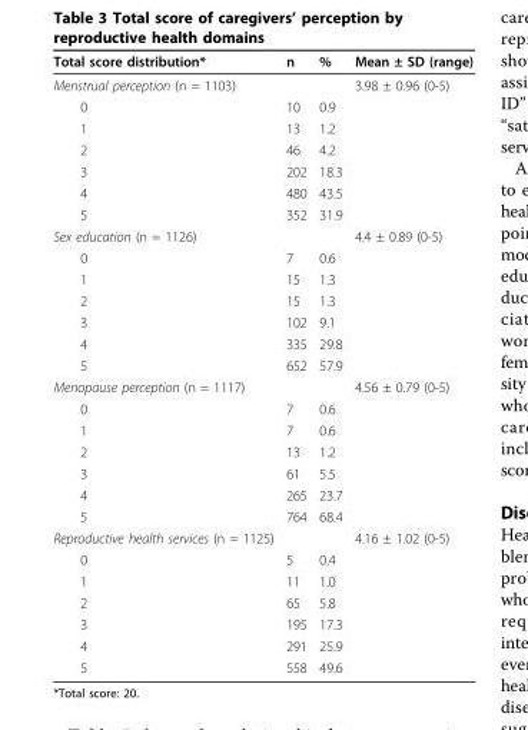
<table><thead><tr><td>Total score distribution*</td><td>n</td><td>%</td><td>Mean ± SD (range)</td></tr></thead><tbody><tr><td>Menstrual perception (n = 1103)</td><td></td><td></td><td>3.98 ± 0.96 (0-5)</td></tr><tr><td>0</td><td>10</td><td>0.9</td><td></td></tr><tr><td>1</td><td>13</td><td>1.2</td><td></td></tr><tr><td>2</td><td>46</td><td>4.2</td><td></td></tr><tr><td>3</td><td>202</td><td>18.3</td><td></td></tr><tr><td>4</td><td>480</td><td>43.5</td><td></td></tr><tr><td>5</td><td>352</td><td>31.9</td><td></td></tr><tr><td>Sex education (n = 1126)</td><td></td><td></td><td>4.4 ± 0.89 (0-5)</td></tr><tr><td>0</td><td>7</td><td>0.6</td><td></td></tr><tr><td>1</td><td>15</td><td>1.3</td><td></td></tr><tr><td>2</td><td>15</td><td>1.3</td><td></td></tr><tr><td>3</td><td>102</td><td>9.1</td><td></td></tr><tr><td>4</td><td>335</td><td>29.8</td><td></td></tr><tr><td>5</td><td>652</td><td>57.9</td><td></td></tr><tr><td>Menopause perception (n = 1117)</td><td></td><td></td><td>4.56 ± 0.79 (0-5)</td></tr><tr><td>0</td><td>7</td><td>0.6</td><td></td></tr><tr><td>1</td><td>7</td><td>0.6</td><td></td></tr><tr><td>2</td><td>13</td><td>1.2</td><td></td></tr><tr><td>3</td><td>61</td><td>5.5</td><td></td></tr><tr><td>4</td><td>265</td><td>23.7</td><td></td></tr><tr><td>5</td><td>764</td><td>68.4</td><td></td></tr><tr><td>Reproductive health services (n = 1125)</td><td></td><td></td><td>4.16 ± 1.02 (0-5)</td></tr><tr><td>0</td><td>5</td><td>0.4</td><td></td></tr><tr><td>1</td><td>11</td><td>1.0</td><td></td></tr><tr><td>2</td><td>65</td><td>5.8</td><td></td></tr><tr><td>3</td><td>195</td><td>17.3</td><td></td></tr><tr><td>4</td><td>291</td><td>25.9</td><td></td></tr><tr><td>5</td><td>558</td><td>49.6</td><td></td></tr></tbody></table>